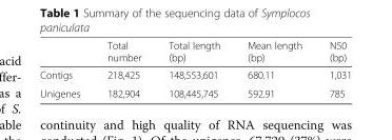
<table><thead><tr><td></td><td>Total number</td><td>Total length (bp)</td><td>Mean length (bp)</td><td>N50 (bp)</td></tr></thead><tbody><tr><td>Contigs</td><td>218,425</td><td>148,553,601</td><td>680.11</td><td>1,031</td></tr><tr><td>Unigenes</td><td>182,904</td><td>108,445,745</td><td>592.91</td><td>785</td></tr></tbody></table>